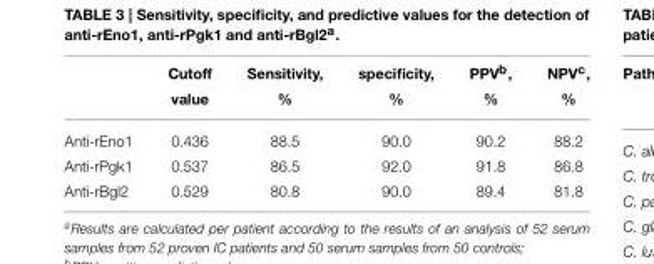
<table><thead><tr><td></td><td>Cutoff value</td><td>Sensitivity, %</td><td>specificity, %</td><td>PPV<sup>b</sup>, %</td><td>NPV<sup>c</sup>, %</td></tr></thead><tbody><tr><td>Anti-rEno1</td><td>0.436</td><td>88.5</td><td>90.0</td><td>90.2</td><td>88.2</td></tr><tr><td>Anti-rPgk1</td><td>0.537</td><td>86.5</td><td>92.0</td><td>91.8</td><td>86.8</td></tr><tr><td>Anti-rBgl2</td><td>0.529</td><td>80.8</td><td>90.0</td><td>89.4</td><td>81.8</td></tr></tbody></table>